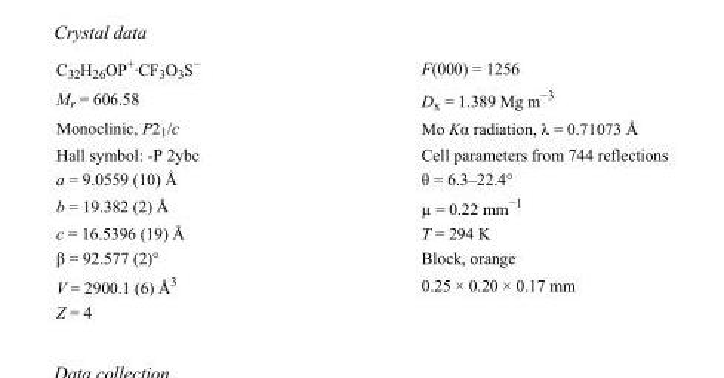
<table><tbody><tr><td>C<sub>32</sub>H<sub>26</sub>OP<sup>+</sup>·CF<sub>3</sub>O<sub>3</sub>S<sup>−</sup></td><td>F(000) = 1256</td></tr><tr><td>M<sub>r</sub> = 606.58</td><td>D<sub>x</sub> = 1.389 Mg m<sup>−3</sup></td></tr><tr><td>Monoclinic, P2<sub>1</sub>/c</td><td>Mo Kα radiation, λ = 0.71073 Å</td></tr><tr><td>Hall symbol: -P 2ybc</td><td>Cell parameters from 744 reflections</td></tr><tr><td>a = 9.0559 (10) Å</td><td>θ = 6.3–22.4°</td></tr><tr><td>b = 19.382 (2) Å</td><td>µ = 0.22 mm<sup>−1</sup></td></tr><tr><td>c = 16.5396 (19) Å</td><td>T = 294 K</td></tr><tr><td>β = 92.577 (2)°</td><td>Block, orange</td></tr><tr><td>V = 2900.1 (6) Å<sup>3</sup></td><td>0.25 × 0.20 × 0.17 mm</td></tr><tr><td>Z = 4</td><td></td></tr></tbody></table>